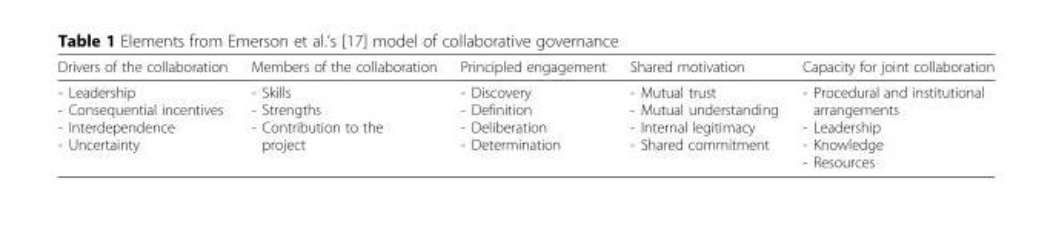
<table><thead><tr><td>Drivers of the collaboration</td><td>Members of the collaboration</td><td>Principled engagement</td><td>Shared motivation</td><td>Capacity for joint collaboration</td></tr></thead><tbody><tr><td>- Leadership - Consequential incentives - Interdependence - Uncertainty</td><td>- Skills - Strengths - Contribution to the project</td><td>- Discovery - Definition - Deliberation - Determination</td><td>- Mutual trust - Mutual understanding - Internal legitimacy - Shared commitment</td><td>- Procedural and institutional arrangements - Leadership - Knowledge - Resources</td></tr></tbody></table>